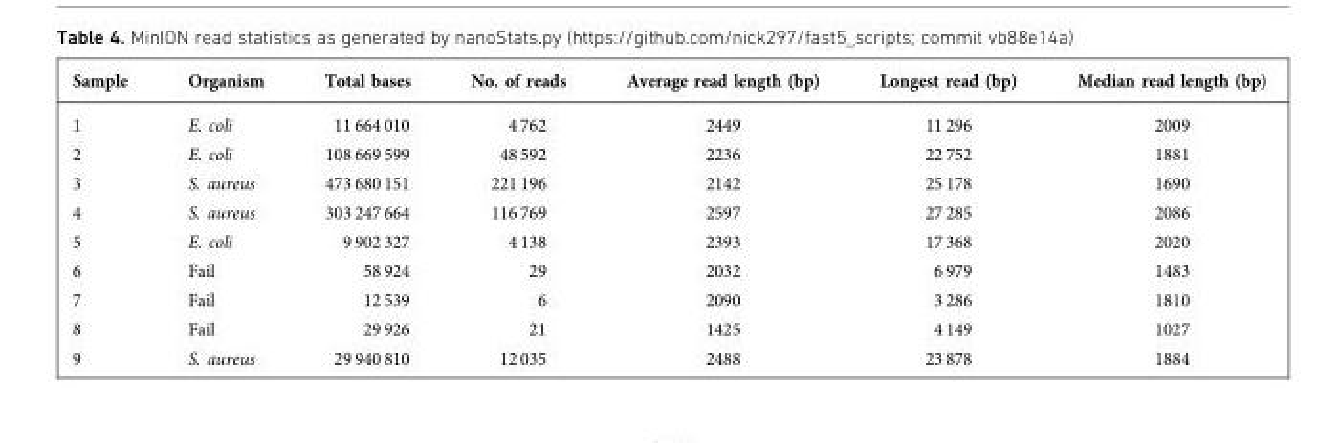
<table><thead><tr><td>Sample</td><td>Organism</td><td>Total bases</td><td>No. of reads</td><td>Average read length (bp)</td><td>Longest read (bp)</td><td>Median read length (bp)</td></tr></thead><tbody><tr><td>1</td><td>E. coli</td><td>11 664 010</td><td>4 762</td><td>2449</td><td>11 296</td><td>2009</td></tr><tr><td>2</td><td>E. coli</td><td>108 669 599</td><td>48 592</td><td>2236</td><td>22 752</td><td>1881</td></tr><tr><td>3</td><td>S. aureus</td><td>473 680 151</td><td>221 196</td><td>2142</td><td>25 178</td><td>1690</td></tr><tr><td>4</td><td>S. aureus</td><td>303 247 664</td><td>116 769</td><td>2597</td><td>27 285</td><td>2086</td></tr><tr><td>5</td><td>E. coli</td><td>9 902 327</td><td>4 138</td><td>2393</td><td>17 368</td><td>2020</td></tr><tr><td>6</td><td>Fail</td><td>58 924</td><td>29</td><td>2032</td><td>6 979</td><td>1483</td></tr><tr><td>7</td><td>Fail</td><td>12 539</td><td>6</td><td>2090</td><td>3 286</td><td>1810</td></tr><tr><td>8</td><td>Fail</td><td>29 926</td><td>21</td><td>1425</td><td>4 149</td><td>1027</td></tr><tr><td>9</td><td>S. aureus</td><td>29 940 810</td><td>12 035</td><td>2488</td><td>23 878</td><td>1884</td></tr></tbody></table>